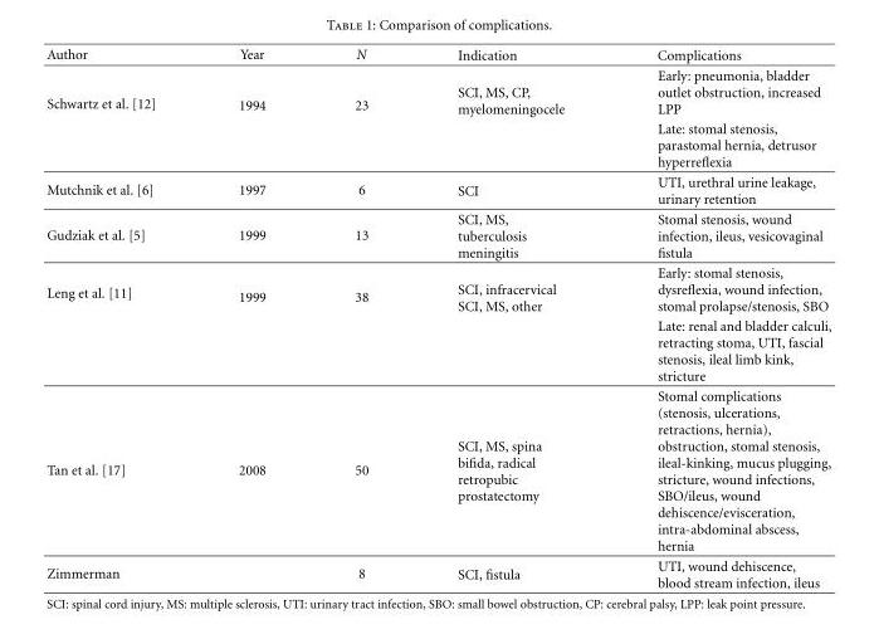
<table><thead><tr><td>Author</td><td>Year</td><td>N</td><td>Indication</td><td>Complications</td></tr></thead><tbody><tr><td rowspan="2">Schwartz et al. [12]</td><td rowspan="2">1994</td><td rowspan="2">23</td><td rowspan="2">SCI, MS, CP, myelomeningocele</td><td>Early: pneumonia, bladder outlet obstruction, increased LPP</td></tr><tr><td>Late: stomal stenosis, parastomal hernia, detrusor hyperreflexia</td></tr><tr><td>Mutchnik et al. [6]</td><td>1997</td><td>6</td><td>SCI</td><td>UTI, urethral urine leakage, urinary retention</td></tr><tr><td>Gudziak et al. [5]</td><td>1999</td><td>13</td><td>SCI, MS, tuberculosis meningitis</td><td>Stomal stenosis, wound infection, ileus, vesicovaginal fistula</td></tr><tr><td rowspan="2">Leng et al. [11]</td><td rowspan="2">1999</td><td rowspan="2">38</td><td rowspan="2">SCI, infracervical SCI, MS, other</td><td>Early: stomal stenosis, dysreflexia, wound infection, stomal prolapse/stenosis, SBO</td></tr><tr><td>Late: renal and bladder calculi, retracting stoma, UTI, fascial stenosis, ileal limb kink, stricture</td></tr><tr><td>Tan et al. [17]</td><td>2008</td><td>50</td><td>SCI, MS, spina bifida, radical retropubic prostatectomy</td><td>Stomal complications (stenosis, ulcerations, retractions, hernia), obstruction, stomal stenosis, ileal-kinking, mucus plugging, stricture, wound infections, SBO/ileus, wound dehiscence/evisceration, intra-abdominal abscess, hernia</td></tr><tr><td>Zimmerman</td><td></td><td>8</td><td>SCI, fistula</td><td>UTI, wound dehiscence, blood stream infection, ileus</td></tr></tbody></table>